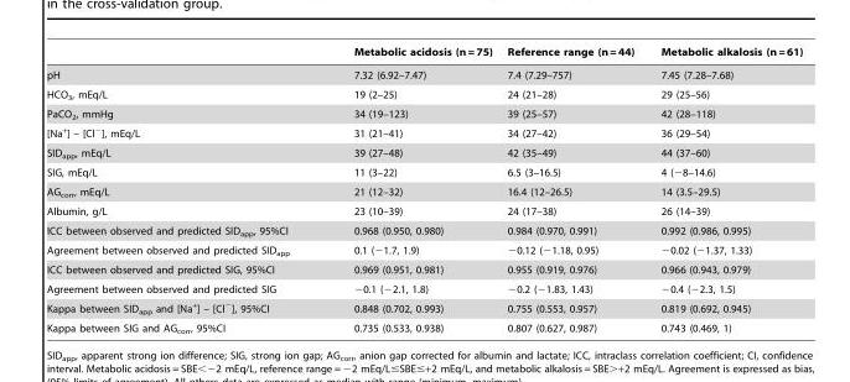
<table><thead><tr><td></td><td>Metabolic acidosis (n = 75)</td><td>Reference range (n = 44)</td><td>Metabolic alkalosis (n = 61)</td></tr></thead><tbody><tr><td>pH</td><td>7.32 (6.92–7.47)</td><td>7.4 (7.29–757)</td><td>7.45 (7.28–7.68)</td></tr><tr><td>HCO<sub>3</sub>, mEq/L</td><td>19 (2–25)</td><td>24 (21–28)</td><td>29 (25–56)</td></tr><tr><td>PaCO<sub>2</sub>, mmHg</td><td>34 (19–123)</td><td>39 (25–57)</td><td>42 (28–118)</td></tr><tr><td>[Na<sup>+</sup>] – [Cl<sup>−</sup>], mEq/L</td><td>31 (21–41)</td><td>34 (27–42)</td><td>36 (29–54)</td></tr><tr><td>SID<sub>app</sub>, mEq/L</td><td>39 (27–48)</td><td>42 (35–49)</td><td>44 (37–60)</td></tr><tr><td>SIG, mEq/L</td><td>11 (3–22)</td><td>6.5 (3–16.5)</td><td>4 (−8–14.6)</td></tr><tr><td>AG<sub>corr</sub>, mEq/L</td><td>21 (12–32)</td><td>16.4 (12–26.5)</td><td>14 (3.5–29.5)</td></tr><tr><td>Albumin, g/L</td><td>23 (10–39)</td><td>24 (17–38)</td><td>26 (14–39)</td></tr><tr><td>ICC between observed and predicted SID<sub>app</sub>, 95%CI</td><td>0.968 (0.950, 0.980)</td><td>0.984 (0.970, 0.991)</td><td>0.992 (0.986, 0.995)</td></tr><tr><td>Agreement between observed and predicted SID<sub>app</sub></td><td>0.1 (−1.7, 1.9)</td><td>−0.12 (−1.18, 0.95)</td><td>−0.02 (−1.37, 1.33)</td></tr><tr><td>ICC between observed and predicted SIG, 95%CI</td><td>0.969 (0.951, 0.981)</td><td>0.955 (0.919, 0.976)</td><td>0.966 (0.943, 0.979)</td></tr><tr><td>Agreement between observed and predicted SIG</td><td>−0.1 (−2.1, 1.8)</td><td>−0.2 (−1.83, 1.43)</td><td>−0.4 (−2.3, 1.5)</td></tr><tr><td>Kappa between SID<sub>app</sub> and [Na<sup>+</sup>] – [Cl<sup>−</sup>], 95%CI</td><td>0.848 (0.702, 0.993)</td><td>0.755 (0.553, 0.957)</td><td>0.819 (0.692, 0.945)</td></tr><tr><td>Kappa between SIG and AG<sub>corr</sub>, 95%CI</td><td>0.735 (0.533, 0.938)</td><td>0.807 (0.627, 0.987)</td><td>0.743 (0.469, 1)</td></tr></tbody></table>